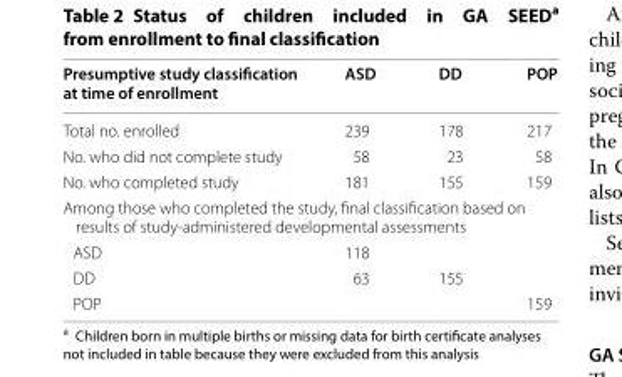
<table><thead><tr><td>Presumptive study classification at time of enrollment</td><td>ASD</td><td>DD</td><td>POP</td></tr></thead><tbody><tr><td>Total no. enrolled</td><td>239</td><td>178</td><td>217</td></tr><tr><td>No. who did not complete study</td><td>58</td><td>23</td><td>58</td></tr><tr><td>No. who completed study</td><td>181</td><td>155</td><td>159</td></tr><tr><td colspan="4">Among those who completed the study, final classification based on results of study-administered developmental assessments</td></tr><tr><td>ASD</td><td>118</td><td></td><td></td></tr><tr><td>DD</td><td>63</td><td>155</td><td></td></tr><tr><td>POP</td><td></td><td></td><td>159</td></tr></tbody></table>